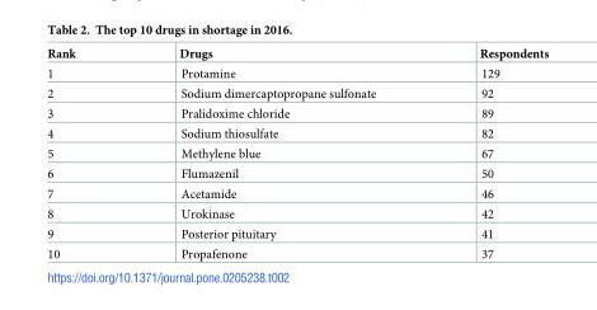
<table><thead><tr><td>Rank</td><td>Drugs</td><td>Respondents</td></tr></thead><tbody><tr><td>1</td><td>Protamine</td><td>129</td></tr><tr><td>2</td><td>Sodium dimercaptopropane sulfonate</td><td>92</td></tr><tr><td>3</td><td>Pralidoxime chloride</td><td>89</td></tr><tr><td>4</td><td>Sodium thiosulfate</td><td>82</td></tr><tr><td>5</td><td>Methylene blue</td><td>67</td></tr><tr><td>6</td><td>Flumazenil</td><td>50</td></tr><tr><td>7</td><td>Acetamide</td><td>46</td></tr><tr><td>8</td><td>Urokinase</td><td>42</td></tr><tr><td>9</td><td>Posterior pituitary</td><td>41</td></tr><tr><td>10</td><td>Propafenone</td><td>37</td></tr></tbody></table>